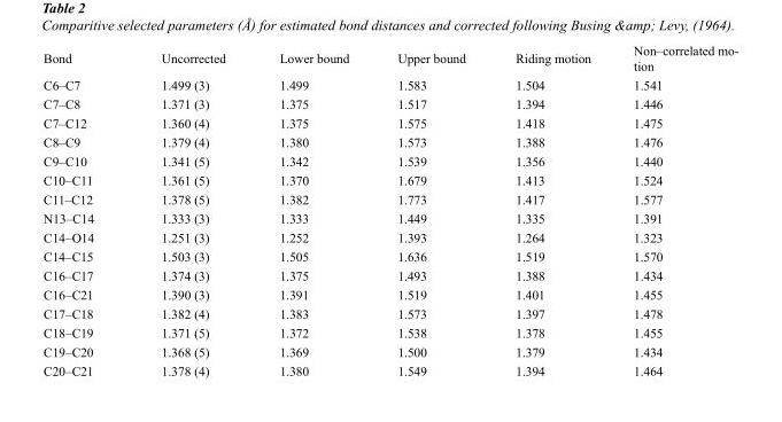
<table><tbody><tr><td>Bond</td><td>Uncorrected</td><td>Lower bound</td><td>Upper bound</td><td>Riding motion</td><td>Non–correlated mo- tion</td></tr><tr><td>C6–C7</td><td>1.499 (3)</td><td>1.499</td><td>1.583</td><td>1.504</td><td>1.541</td></tr><tr><td>C7–C8</td><td>1.371 (3)</td><td>1.375</td><td>1.517</td><td>1.394</td><td>1.446</td></tr><tr><td>C7–C12</td><td>1.360 (4)</td><td>1.375</td><td>1.575</td><td>1.418</td><td>1.475</td></tr><tr><td>C8–C9</td><td>1.379 (4)</td><td>1.380</td><td>1.573</td><td>1.388</td><td>1.476</td></tr><tr><td>C9–C10</td><td>1.341 (5)</td><td>1.342</td><td>1.539</td><td>1.356</td><td>1.440</td></tr><tr><td>C10–C11</td><td>1.361 (5)</td><td>1.370</td><td>1.679</td><td>1.413</td><td>1.524</td></tr><tr><td>C11–C12</td><td>1.378 (5)</td><td>1.382</td><td>1.773</td><td>1.417</td><td>1.577</td></tr><tr><td>N13–C14</td><td>1.333 (3)</td><td>1.333</td><td>1.449</td><td>1.335</td><td>1.391</td></tr><tr><td>C14–O14</td><td>1.251 (3)</td><td>1.252</td><td>1.393</td><td>1.264</td><td>1.323</td></tr><tr><td>C14–C15</td><td>1.503 (3)</td><td>1.505</td><td>1.636</td><td>1.519</td><td>1.570</td></tr><tr><td>C16–C17</td><td>1.374 (3)</td><td>1.375</td><td>1.493</td><td>1.388</td><td>1.434</td></tr><tr><td>C16–C21</td><td>1.390 (3)</td><td>1.391</td><td>1.519</td><td>1.401</td><td>1.455</td></tr><tr><td>C17–C18</td><td>1.382 (4)</td><td>1.383</td><td>1.573</td><td>1.397</td><td>1.478</td></tr><tr><td>C18–C19</td><td>1.371 (5)</td><td>1.372</td><td>1.538</td><td>1.378</td><td>1.455</td></tr><tr><td>C19–C20</td><td>1.368 (5)</td><td>1.369</td><td>1.500</td><td>1.379</td><td>1.434</td></tr><tr><td>C20–C21</td><td>1.378 (4)</td><td>1.380</td><td>1.549</td><td>1.394</td><td>1.464</td></tr></tbody></table>